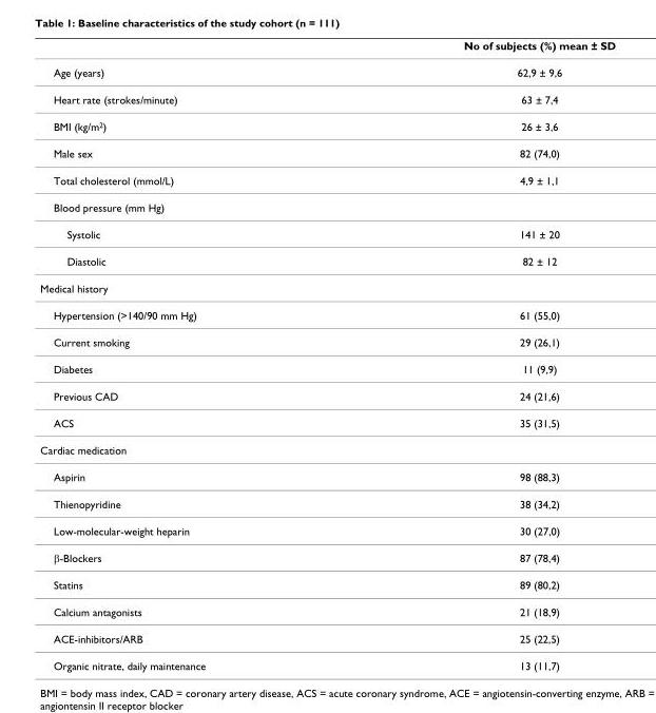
<table><thead><tr><td></td><td>No of subjects (%) mean ± SD</td></tr></thead><tbody><tr><td>Age (years)</td><td>62,9 ± 9,6</td></tr><tr><td>Heart rate (strokes/minute)</td><td>63 ± 7,4</td></tr><tr><td>BMI (kg/m<sup>2</sup>)</td><td>26 ± 3,6</td></tr><tr><td>Male sex</td><td>82 (74,0)</td></tr><tr><td>Total cholesterol (mmol/L)</td><td>4,9 ± 1,1</td></tr><tr><td colspan="2">Blood pressure (mm Hg)</td></tr><tr><td>Systolic</td><td>141 ± 20</td></tr><tr><td>Diastolic</td><td>82 ± 12</td></tr><tr><td colspan="2">Medical history</td></tr><tr><td>Hypertension (&gt;140/90 mm Hg)</td><td>61 (55,0)</td></tr><tr><td>Current smoking</td><td>29 (26,1)</td></tr><tr><td>Diabetes</td><td>11 (9,9)</td></tr><tr><td>Previous CAD</td><td>24 (21,6)</td></tr><tr><td>ACS</td><td>35 (31,5)</td></tr><tr><td colspan="2">Cardiac medication</td></tr><tr><td>Aspirin</td><td>98 (88,3)</td></tr><tr><td>Thienopyridine</td><td>38 (34,2)</td></tr><tr><td>Low-molecular-weight heparin</td><td>30 (27,0)</td></tr><tr><td>β-Blockers</td><td>87 (78,4)</td></tr><tr><td>Statins</td><td>89 (80,2)</td></tr><tr><td>Calcium antagonists</td><td>21 (18,9)</td></tr><tr><td>ACE-inhibitors/ARB</td><td>25 (22,5)</td></tr><tr><td>Organic nitrate, daily maintenance</td><td>13 (11,7)</td></tr></tbody></table>